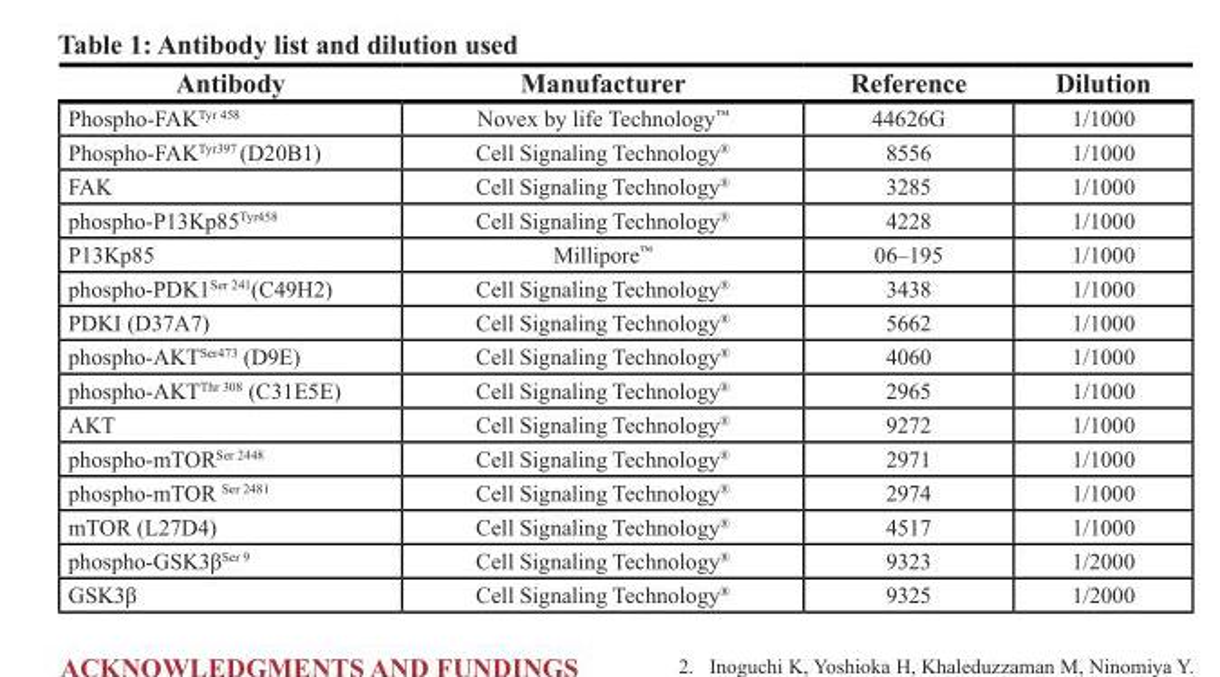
<table><thead><tr><td>Antibody</td><td>Manufacturer</td><td>Reference</td><td>Dilution</td></tr></thead><tbody><tr><td>Phospho-FAK<sup>Tyr 458</sup></td><td>Novex by life Technology<sup>™</sup></td><td>44626G</td><td>1/1000</td></tr><tr><td>Phospho-FAK<sup>Tyr397</sup> (D20B1)</td><td>Cell Signaling Technology<sup>®</sup></td><td>8556</td><td>1/1000</td></tr><tr><td>FAK</td><td>Cell Signaling Technology<sup>®</sup></td><td>3285</td><td>1/1000</td></tr><tr><td>phospho-P13Kp85<sup>Tyr458</sup></td><td>Cell Signaling Technology<sup>®</sup></td><td>4228</td><td>1/1000</td></tr><tr><td>P13Kp85</td><td>Millipore<sup>™</sup></td><td>06–195</td><td>1/1000</td></tr><tr><td>phospho-PDK1<sup>Ser 241</sup>(C49H2)</td><td>Cell Signaling Technology<sup>®</sup></td><td>3438</td><td>1/1000</td></tr><tr><td>PDKI (D37A7)</td><td>Cell Signaling Technology<sup>®</sup></td><td>5662</td><td>1/1000</td></tr><tr><td>phospho-AKT<sup>Ser473</sup> (D9E)</td><td>Cell Signaling Technology<sup>®</sup></td><td>4060</td><td>1/1000</td></tr><tr><td>phospho-AKT<sup>Thr 308</sup> (C31E5E)</td><td>Cell Signaling Technology<sup>®</sup></td><td>2965</td><td>1/1000</td></tr><tr><td>AKT</td><td>Cell Signaling Technology<sup>®</sup></td><td>9272</td><td>1/1000</td></tr><tr><td>phospho-mTOR<sup>Ser 2448</sup></td><td>Cell Signaling Technology<sup>®</sup></td><td>2971</td><td>1/1000</td></tr><tr><td>phospho-mTOR <sup>Ser 2481</sup></td><td>Cell Signaling Technology<sup>®</sup></td><td>2974</td><td>1/1000</td></tr><tr><td>mTOR (L27D4)</td><td>Cell Signaling Technology<sup>®</sup></td><td>4517</td><td>1/1000</td></tr><tr><td>phospho-GSK3β<sup>Ser 9</sup></td><td>Cell Signaling Technology<sup>®</sup></td><td>9323</td><td>1/2000</td></tr><tr><td>GSK3β</td><td>Cell Signaling Technology<sup>®</sup></td><td>9325</td><td>1/2000</td></tr></tbody></table>